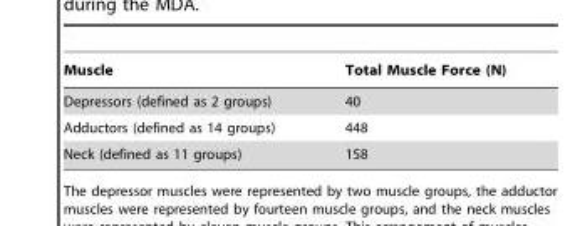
<table><thead><tr><td>Muscle</td><td>Total Muscle Force (N)</td></tr></thead><tbody><tr><td>Depressors (defined as 2 groups)</td><td>40</td></tr><tr><td>Adductors (defined as 14 groups)</td><td>448</td></tr><tr><td>Neck (defined as 11 groups)</td><td>158</td></tr></tbody></table>